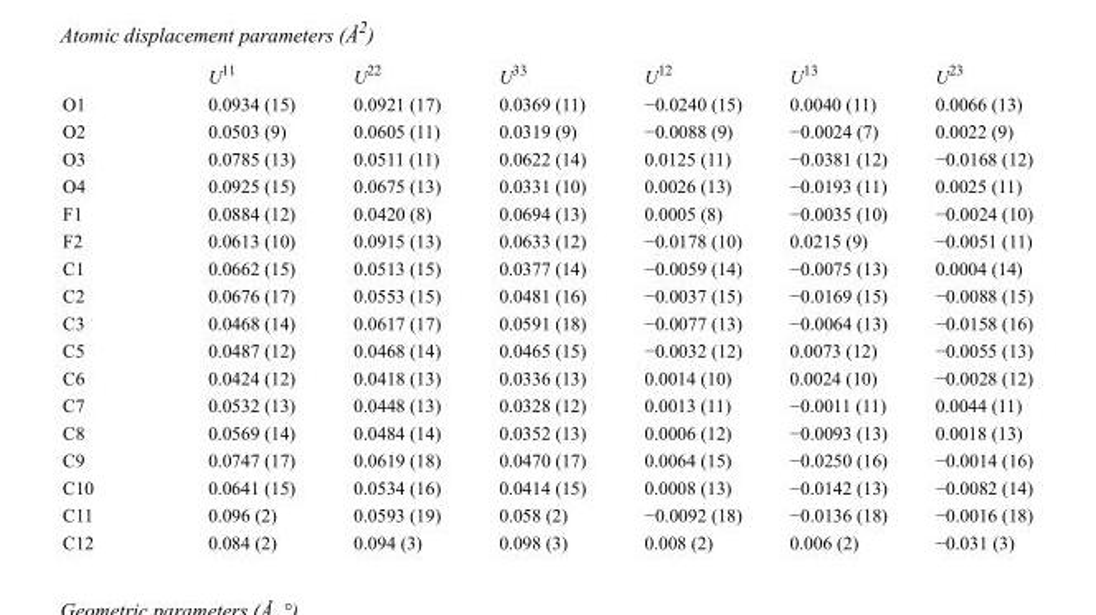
<table><thead><tr><td></td><td>U<sup>11</sup></td><td>U<sup>22</sup></td><td>U<sup>33</sup></td><td>U<sup>12</sup></td><td>U<sup>13</sup></td><td>U<sup>23</sup></td></tr></thead><tbody><tr><td>O1</td><td>0.0934 (15)</td><td>0.0921 (17)</td><td>0.0369 (11)</td><td>−0.0240 (15)</td><td>0.0040 (11)</td><td>0.0066 (13)</td></tr><tr><td>O2</td><td>0.0503 (9)</td><td>0.0605 (11)</td><td>0.0319 (9)</td><td>−0.0088 (9)</td><td>−0.0024 (7)</td><td>0.0022 (9)</td></tr><tr><td>O3</td><td>0.0785 (13)</td><td>0.0511 (11)</td><td>0.0622 (14)</td><td>0.0125 (11)</td><td>−0.0381 (12)</td><td>−0.0168 (12)</td></tr><tr><td>O4</td><td>0.0925 (15)</td><td>0.0675 (13)</td><td>0.0331 (10)</td><td>0.0026 (13)</td><td>−0.0193 (11)</td><td>0.0025 (11)</td></tr><tr><td>F1</td><td>0.0884 (12)</td><td>0.0420 (8)</td><td>0.0694 (13)</td><td>0.0005 (8)</td><td>−0.0035 (10)</td><td>−0.0024 (10)</td></tr><tr><td>F2</td><td>0.0613 (10)</td><td>0.0915 (13)</td><td>0.0633 (12)</td><td>−0.0178 (10)</td><td>0.0215 (9)</td><td>−0.0051 (11)</td></tr><tr><td>C1</td><td>0.0662 (15)</td><td>0.0513 (15)</td><td>0.0377 (14)</td><td>−0.0059 (14)</td><td>−0.0075 (13)</td><td>0.0004 (14)</td></tr><tr><td>C2</td><td>0.0676 (17)</td><td>0.0553 (15)</td><td>0.0481 (16)</td><td>−0.0037 (15)</td><td>−0.0169 (15)</td><td>−0.0088 (15)</td></tr><tr><td>C3</td><td>0.0468 (14)</td><td>0.0617 (17)</td><td>0.0591 (18)</td><td>−0.0077 (13)</td><td>−0.0064 (13)</td><td>−0.0158 (16)</td></tr><tr><td>C5</td><td>0.0487 (12)</td><td>0.0468 (14)</td><td>0.0465 (15)</td><td>−0.0032 (12)</td><td>0.0073 (12)</td><td>−0.0055 (13)</td></tr><tr><td>C6</td><td>0.0424 (12)</td><td>0.0418 (13)</td><td>0.0336 (13)</td><td>0.0014 (10)</td><td>0.0024 (10)</td><td>−0.0028 (12)</td></tr><tr><td>C7</td><td>0.0532 (13)</td><td>0.0448 (13)</td><td>0.0328 (12)</td><td>0.0013 (11)</td><td>−0.0011 (11)</td><td>0.0044 (11)</td></tr><tr><td>C8</td><td>0.0569 (14)</td><td>0.0484 (14)</td><td>0.0352 (13)</td><td>0.0006 (12)</td><td>−0.0093 (13)</td><td>0.0018 (13)</td></tr><tr><td>C9</td><td>0.0747 (17)</td><td>0.0619 (18)</td><td>0.0470 (17)</td><td>0.0064 (15)</td><td>−0.0250 (16)</td><td>−0.0014 (16)</td></tr><tr><td>C10</td><td>0.0641 (15)</td><td>0.0534 (16)</td><td>0.0414 (15)</td><td>0.0008 (13)</td><td>−0.0142 (13)</td><td>−0.0082 (14)</td></tr><tr><td>C11</td><td>0.096 (2)</td><td>0.0593 (19)</td><td>0.058 (2)</td><td>−0.0092 (18)</td><td>−0.0136 (18)</td><td>−0.0016 (18)</td></tr><tr><td>C12</td><td>0.084 (2)</td><td>0.094 (3)</td><td>0.098 (3)</td><td>0.008 (2)</td><td>0.006 (2)</td><td>−0.031 (3)</td></tr></tbody></table>